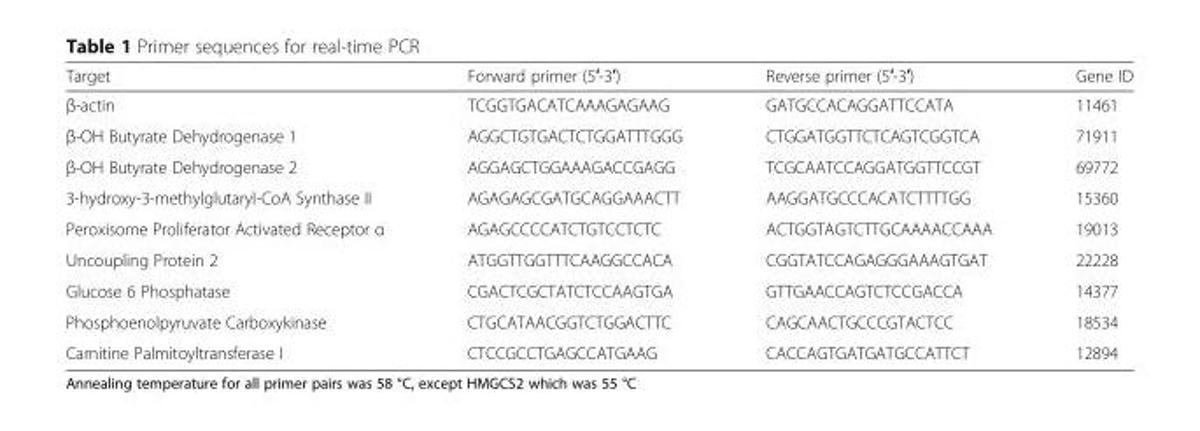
<table><thead><tr><td>Target</td><td>Forward primer (5′-3′)</td><td>Reverse primer (5′-3′)</td><td>Gene ID</td></tr></thead><tbody><tr><td>β-actin</td><td>TCGGTGACATCAAAGAGAAG</td><td>GATGCCACAGGATTCCATA</td><td>11461</td></tr><tr><td>β-OH Butyrate Dehydrogenase 1</td><td>AGGCTGTGACTCTGGATTTGGG</td><td>CTGGATGGTTCTCAGTCGGTCA</td><td>71911</td></tr><tr><td>β-OH Butyrate Dehydrogenase 2</td><td>AGGAGCTGGAAAGACCGAGG</td><td>TCGCAATCCAGGATGGTTCCGT</td><td>69772</td></tr><tr><td>3-hydroxy-3-methylglutaryl-CoA Synthase II</td><td>AGAGAGCGATGCAGGAAACTT</td><td>AAGGATGCCCACATCTTTTGG</td><td>15360</td></tr><tr><td>Peroxisome Proliferator Activated Receptor α</td><td>AGAGCCCCATCTGTCCTCTC</td><td>ACTGGTAGTCTTGCAAAACCAAA</td><td>19013</td></tr><tr><td>Uncoupling Protein 2</td><td>ATGGTTGGTTTCAAGGCCACA</td><td>CGGTATCCAGAGGGAAAGTGAT</td><td>22228</td></tr><tr><td>Glucose 6 Phosphatase</td><td>CGACTCGCTATCTCCAAGTGA</td><td>GTTGAACCAGTCTCCGACCA</td><td>14377</td></tr><tr><td>Phosphoenolpyruvate Carboxykinase</td><td>CTGCATAACGGTCTGGACTTC</td><td>CAGCAACTGCCCGTACTCC</td><td>18534</td></tr><tr><td>Carnitine Palmitoyltransferase I</td><td>CTCCGCCTGAGCCATGAAG</td><td>CACCAGTGATGATGCCATTCT</td><td>12894</td></tr></tbody></table>